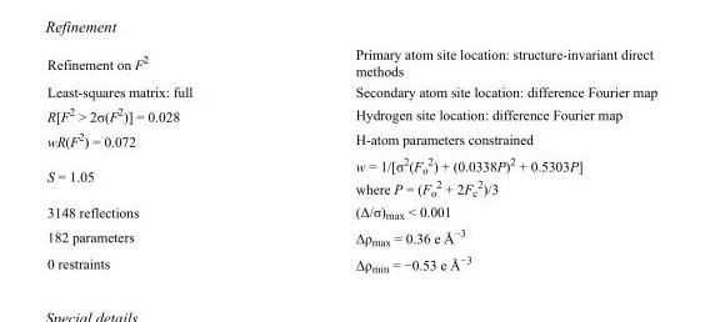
<table><tbody><tr><td>Refinement on F<sup>2</sup></td><td>Primary atom site location: structure-invariant direct methods</td></tr><tr><td>Least-squares matrix: full</td><td>Secondary atom site location: difference Fourier map</td></tr><tr><td>R[F<sup>2</sup> &gt; 2σ(F<sup>2</sup>)] = 0.028</td><td>Hydrogen site location: difference Fourier map</td></tr><tr><td>wR(F<sup>2</sup>) = 0.072</td><td>H-atom parameters constrained</td></tr><tr><td>S = 1.05</td><td>w = 1/[σ<sup>2</sup>(F<sub>o</sub> <sup>2</sup>) + (0.0338P)<sup>2</sup> + 0.5303P] where P = (F<sub>o</sub> <sup>2</sup> + 2F<sub>c</sub> <sup>2</sup>)/3</td></tr><tr><td>3148 reflections</td><td>(Δ/σ)<sub>max</sub> &lt; 0.001</td></tr><tr><td>182 parameters</td><td>Δρ<sub>max</sub> = 0.36 e Å<sup>−3</sup></td></tr><tr><td>0 restraints</td><td>Δρ<sub>min</sub> = −0.53 e Å<sup>−3</sup></td></tr></tbody></table>